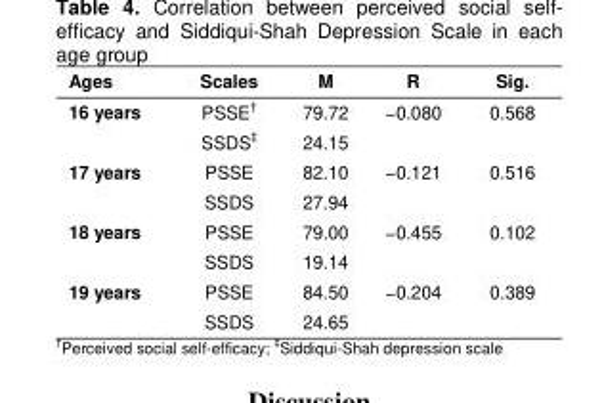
<table><thead><tr><td>Ages</td><td>Scales</td><td>M</td><td>R</td><td>Sig.</td></tr></thead><tbody><tr><td rowspan="2">16 years</td><td>PSSE†</td><td>79.72</td><td rowspan="2">−0.080</td><td rowspan="2">0.568</td></tr><tr><td>SSDS‡</td><td>24.15</td></tr><tr><td rowspan="2">17 years</td><td>PSSE</td><td>82.10</td><td rowspan="2">−0.121</td><td rowspan="2">0.516</td></tr><tr><td>SSDS</td><td>27.94</td></tr><tr><td rowspan="2">18 years</td><td>PSSE</td><td>79.00</td><td rowspan="2">−0.455</td><td rowspan="2">0.102</td></tr><tr><td>SSDS</td><td>19.14</td></tr><tr><td rowspan="2">19 years</td><td>PSSE</td><td>84.50</td><td rowspan="2">−0.204</td><td rowspan="2">0.389</td></tr><tr><td>SSDS</td><td>24.65</td></tr></tbody></table>